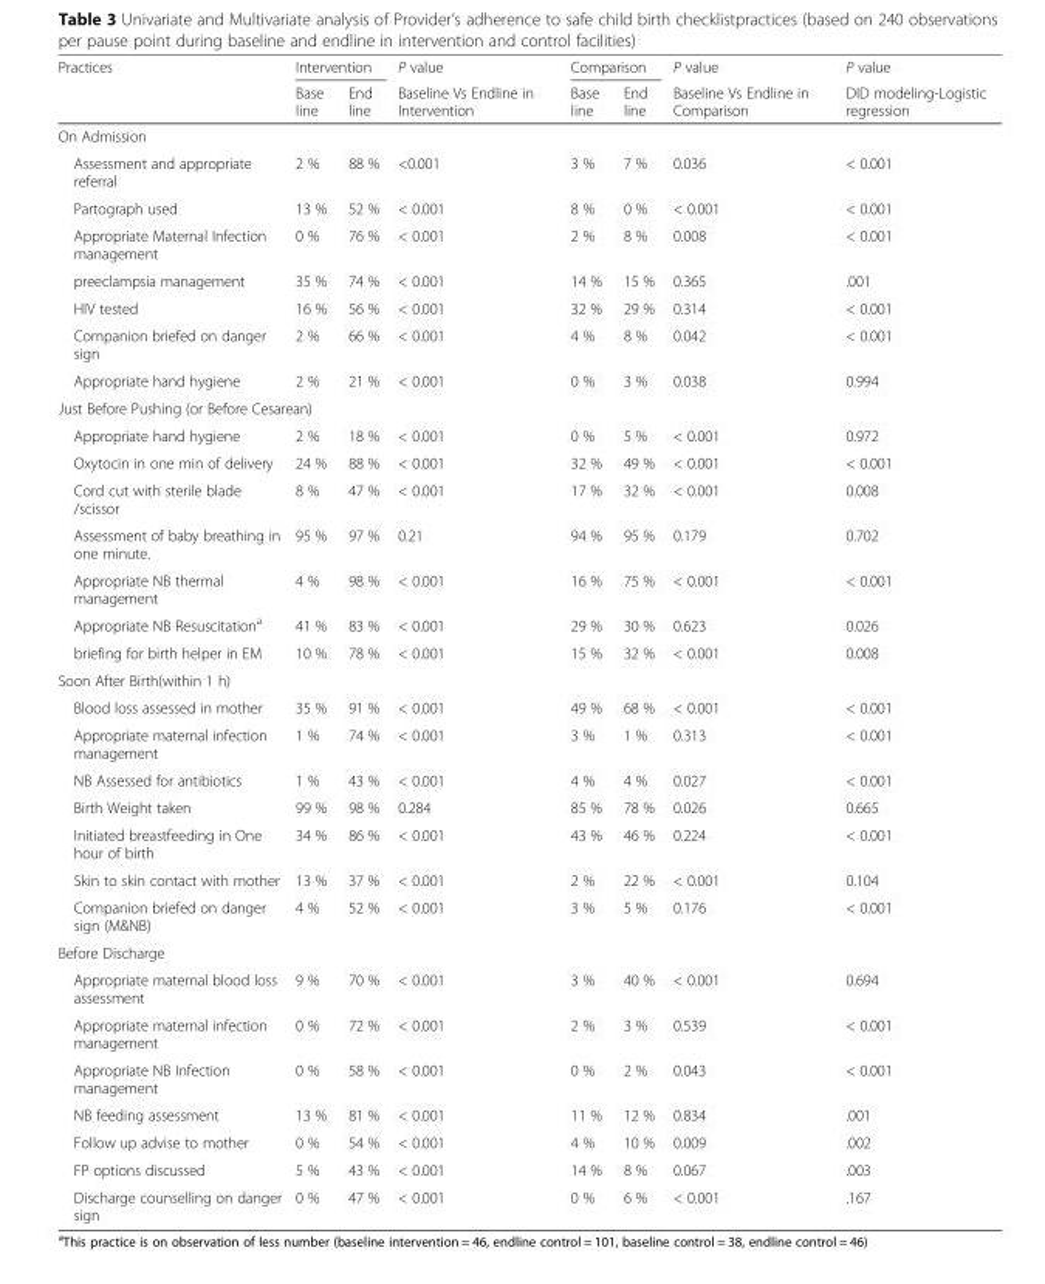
<table><thead><tr><td rowspan="2">Practices</td><td colspan="2">Intervention</td><td rowspan="2">P value Baseline Vs Endline in Intervention</td><td colspan="2">Comparison</td><td rowspan="2">P value Baseline Vs Endline in Comparison</td><td rowspan="2">P value DID modeling-Logistic regression</td></tr><tr><td>Base line</td><td>End line</td><td>Base line</td><td>End line</td></tr></thead><tbody><tr><td colspan="8">On Admission</td></tr><tr><td>Assessment and appropriate referral</td><td>2 %</td><td>88 %</td><td>&lt;0.001</td><td>3 %</td><td>7 %</td><td>0.036</td><td>&lt; 0.001</td></tr><tr><td>Partograph used</td><td>13 %</td><td>52 %</td><td>&lt; 0.001</td><td>8 %</td><td>0 %</td><td>&lt; 0.001</td><td>&lt; 0.001</td></tr><tr><td>Appropriate Maternal Infection management</td><td>0 %</td><td>76 %</td><td>&lt; 0.001</td><td>2 %</td><td>8 %</td><td>0.008</td><td>&lt; 0.001</td></tr><tr><td>preeclampsia management</td><td>35 %</td><td>74 %</td><td>&lt; 0.001</td><td>14 %</td><td>15 %</td><td>0.365</td><td>.001</td></tr><tr><td>HIV tested</td><td>16 %</td><td>56 %</td><td>&lt; 0.001</td><td>32 %</td><td>29 %</td><td>0.314</td><td>&lt; 0.001</td></tr><tr><td>Companion briefed on danger sign</td><td>2 %</td><td>66 %</td><td>&lt; 0.001</td><td>4 %</td><td>8 %</td><td>0.042</td><td>&lt; 0.001</td></tr><tr><td>Appropriate hand hygiene</td><td>2 %</td><td>21 %</td><td>&lt; 0.001</td><td>0 %</td><td>3 %</td><td>0.038</td><td>0.994</td></tr><tr><td colspan="8">Just Before Pushing (or Before Cesarean)</td></tr><tr><td>Appropriate hand hygiene</td><td>2 %</td><td>18 %</td><td>&lt; 0.001</td><td>0 %</td><td>5 %</td><td>&lt; 0.001</td><td>0.972</td></tr><tr><td>Oxytocin in one min of delivery</td><td>24 %</td><td>88 %</td><td>&lt; 0.001</td><td>32 %</td><td>49 %</td><td>&lt; 0.001</td><td>&lt; 0.001</td></tr><tr><td>Cord cut with sterile blade /scissor</td><td>8 %</td><td>47 %</td><td>&lt; 0.001</td><td>17 %</td><td>32 %</td><td>&lt; 0.001</td><td>0.008</td></tr><tr><td>Assessment of baby breathing in one minute.</td><td>95 %</td><td>97 %</td><td>0.21</td><td>94 %</td><td>95 %</td><td>0.179</td><td>0.702</td></tr><tr><td>Appropriate NB thermal management</td><td>4 %</td><td>98 %</td><td>&lt; 0.001</td><td>16 %</td><td>75 %</td><td>&lt; 0.001</td><td>&lt; 0.001</td></tr><tr><td>Appropriate NB Resuscitation<sup>a</sup></td><td>41 %</td><td>83 %</td><td>&lt; 0.001</td><td>29 %</td><td>30 %</td><td>0.623</td><td>0.026</td></tr><tr><td>briefing for birth helper in EM</td><td>10 %</td><td>78 %</td><td>&lt; 0.001</td><td>15 %</td><td>32 %</td><td>&lt; 0.001</td><td>0.008</td></tr><tr><td colspan="8">Soon After Birth(within 1 h)</td></tr><tr><td>Blood loss assessed in mother</td><td>35 %</td><td>91 %</td><td>&lt; 0.001</td><td>49 %</td><td>68 %</td><td>&lt; 0.001</td><td>&lt; 0.001</td></tr><tr><td>Appropriate maternal infection management</td><td>1 %</td><td>74 %</td><td>&lt; 0.001</td><td>3 %</td><td>1 %</td><td>0.313</td><td>&lt; 0.001</td></tr><tr><td>NB Assessed for antibiotics</td><td>1 %</td><td>43 %</td><td>&lt; 0.001</td><td>4 %</td><td>4 %</td><td>0.027</td><td>&lt; 0.001</td></tr><tr><td>Birth Weight taken</td><td>99 %</td><td>98 %</td><td>0.284</td><td>85 %</td><td>78 %</td><td>0.026</td><td>0.665</td></tr><tr><td>Initiated breastfeeding in One hour of birth</td><td>34 %</td><td>86 %</td><td>&lt; 0.001</td><td>43 %</td><td>46 %</td><td>0.224</td><td>&lt; 0.001</td></tr><tr><td>Skin to skin contact with mother</td><td>13 %</td><td>37 %</td><td>&lt; 0.001</td><td>2 %</td><td>22 %</td><td>&lt; 0.001</td><td>0.104</td></tr><tr><td>Companion briefed on danger sign (M&amp;NB)</td><td>4 %</td><td>52 %</td><td>&lt; 0.001</td><td>3 %</td><td>5 %</td><td>0.176</td><td>&lt; 0.001</td></tr><tr><td colspan="8">Before Discharge</td></tr><tr><td>Appropriate maternal blood loss assessment</td><td>9 %</td><td>70 %</td><td>&lt; 0.001</td><td>3 %</td><td>40 %</td><td>&lt; 0.001</td><td>0.694</td></tr><tr><td>Appropriate maternal infection management</td><td>0 %</td><td>72 %</td><td>&lt; 0.001</td><td>2 %</td><td>3 %</td><td>0.539</td><td>&lt; 0.001</td></tr><tr><td>Appropriate NB Infection management</td><td>0 %</td><td>58 %</td><td>&lt; 0.001</td><td>0 %</td><td>2 %</td><td>0.043</td><td>&lt; 0.001</td></tr><tr><td>NB feeding assessment</td><td>13 %</td><td>81 %</td><td>&lt; 0.001</td><td>11 %</td><td>12 %</td><td>0.834</td><td>.001</td></tr><tr><td>Follow up advise to mother</td><td>0 %</td><td>54 %</td><td>&lt; 0.001</td><td>4 %</td><td>10 %</td><td>0.009</td><td>.002</td></tr><tr><td>FP options discussed</td><td>5 %</td><td>43 %</td><td>&lt; 0.001</td><td>14 %</td><td>8 %</td><td>0.067</td><td>.003</td></tr><tr><td>Discharge counselling on danger sign</td><td>0 %</td><td>47 %</td><td>&lt; 0.001</td><td>0 %</td><td>6 %</td><td>&lt; 0.001</td><td>.167</td></tr></tbody></table>